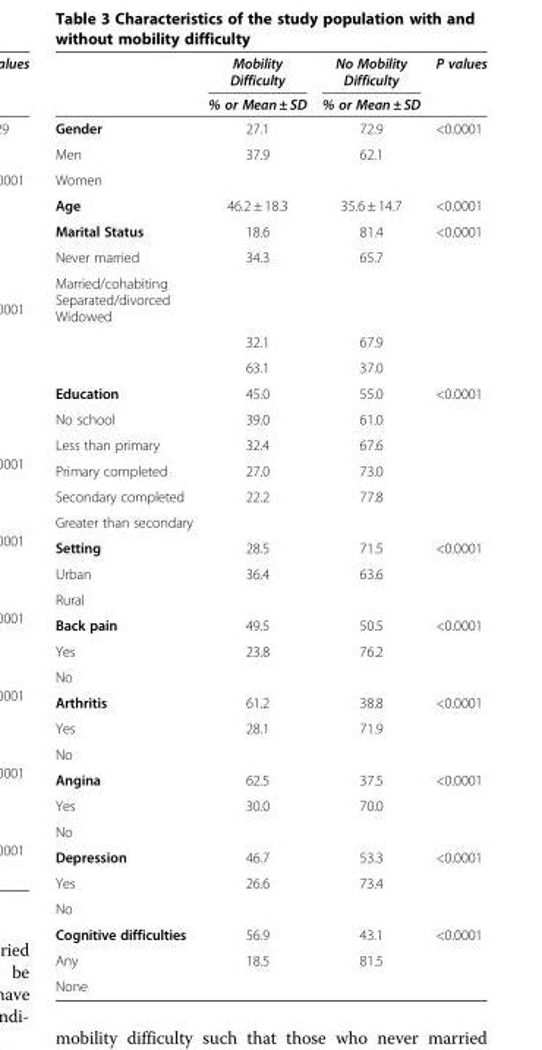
<table><thead><tr><td rowspan="2"></td><td rowspan="2">Mobility Difficulty % or Mean ± SD</td><td rowspan="2">No Mobility Difficulty % or Mean ± SD</td><td rowspan="2">P values</td></tr><tr></tr></thead><tbody><tr><td>Gender</td><td>27.1</td><td>72.9</td><td>&lt;0.0001</td></tr><tr><td>Men</td><td>37.9</td><td>62.1</td><td></td></tr><tr><td colspan="4">Women</td></tr><tr><td>Age</td><td>46.2 ± 18.3</td><td>35.6 ± 14.7</td><td>&lt;0.0001</td></tr><tr><td>Marital Status</td><td>18.6</td><td>81.4</td><td>&lt;0.0001</td></tr><tr><td>Never married</td><td>34.3</td><td>65.7</td><td></td></tr><tr><td colspan="4">Married/cohabiting Separated/divorced Widowed</td></tr><tr><td></td><td>32.1</td><td>67.9</td><td></td></tr><tr><td></td><td>63.1</td><td>37.0</td><td></td></tr><tr><td>Education</td><td>45.0</td><td>55.0</td><td>&lt;0.0001</td></tr><tr><td>No school</td><td>39.0</td><td>61.0</td><td></td></tr><tr><td>Less than primary</td><td>32.4</td><td>67.6</td><td></td></tr><tr><td>Primary completed</td><td>27.0</td><td>73.0</td><td></td></tr><tr><td>Secondary completed</td><td>22.2</td><td>77.8</td><td></td></tr><tr><td colspan="4">Greater than secondary</td></tr><tr><td>Setting</td><td>28.5</td><td>71.5</td><td>&lt;0.0001</td></tr><tr><td>Urban</td><td>36.4</td><td>63.6</td><td></td></tr><tr><td colspan="4">Rural</td></tr><tr><td>Back pain</td><td>49.5</td><td>50.5</td><td>&lt;0.0001</td></tr><tr><td>Yes</td><td>23.8</td><td>76.2</td><td></td></tr><tr><td colspan="4">No</td></tr><tr><td>Arthritis</td><td>61.2</td><td>38.8</td><td>&lt;0.0001</td></tr><tr><td>Yes</td><td>28.1</td><td>71.9</td><td></td></tr><tr><td colspan="4">No</td></tr><tr><td>Angina</td><td>62.5</td><td>37.5</td><td>&lt;0.0001</td></tr><tr><td>Yes</td><td>30.0</td><td>70.0</td><td></td></tr><tr><td colspan="4">No</td></tr><tr><td>Depression</td><td>46.7</td><td>53.3</td><td>&lt;0.0001</td></tr><tr><td>Yes</td><td>26.6</td><td>73.4</td><td></td></tr><tr><td colspan="4">No</td></tr><tr><td>Cognitive difficulties</td><td>56.9</td><td>43.1</td><td>&lt;0.0001</td></tr><tr><td>Any</td><td>18.5</td><td>81.5</td><td></td></tr><tr><td>None</td><td></td><td></td><td></td></tr></tbody></table>